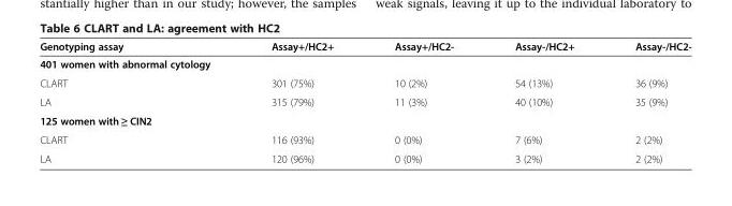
<table><thead><tr><td>Genotyping assay</td><td>Assay+/HC2+</td><td>Assay+/HC2-</td><td>Assay-/HC2+</td><td>Assay-/HC2-</td></tr></thead><tbody><tr><td colspan="5">401 women with abnormal cytology</td></tr><tr><td>CLART</td><td>301 (75%)</td><td>10 (2%)</td><td>54 (13%)</td><td>36 (9%)</td></tr><tr><td>LA</td><td>315 (79%)</td><td>11 (3%)</td><td>40 (10%)</td><td>35 (9%)</td></tr><tr><td colspan="5">125 women with ≥ CIN2</td></tr><tr><td>CLART</td><td>116 (93%)</td><td>0 (0%)</td><td>7 (6%)</td><td>2 (2%)</td></tr><tr><td>LA</td><td>120 (96%)</td><td>0 (0%)</td><td>3 (2%)</td><td>2 (2%)</td></tr></tbody></table>